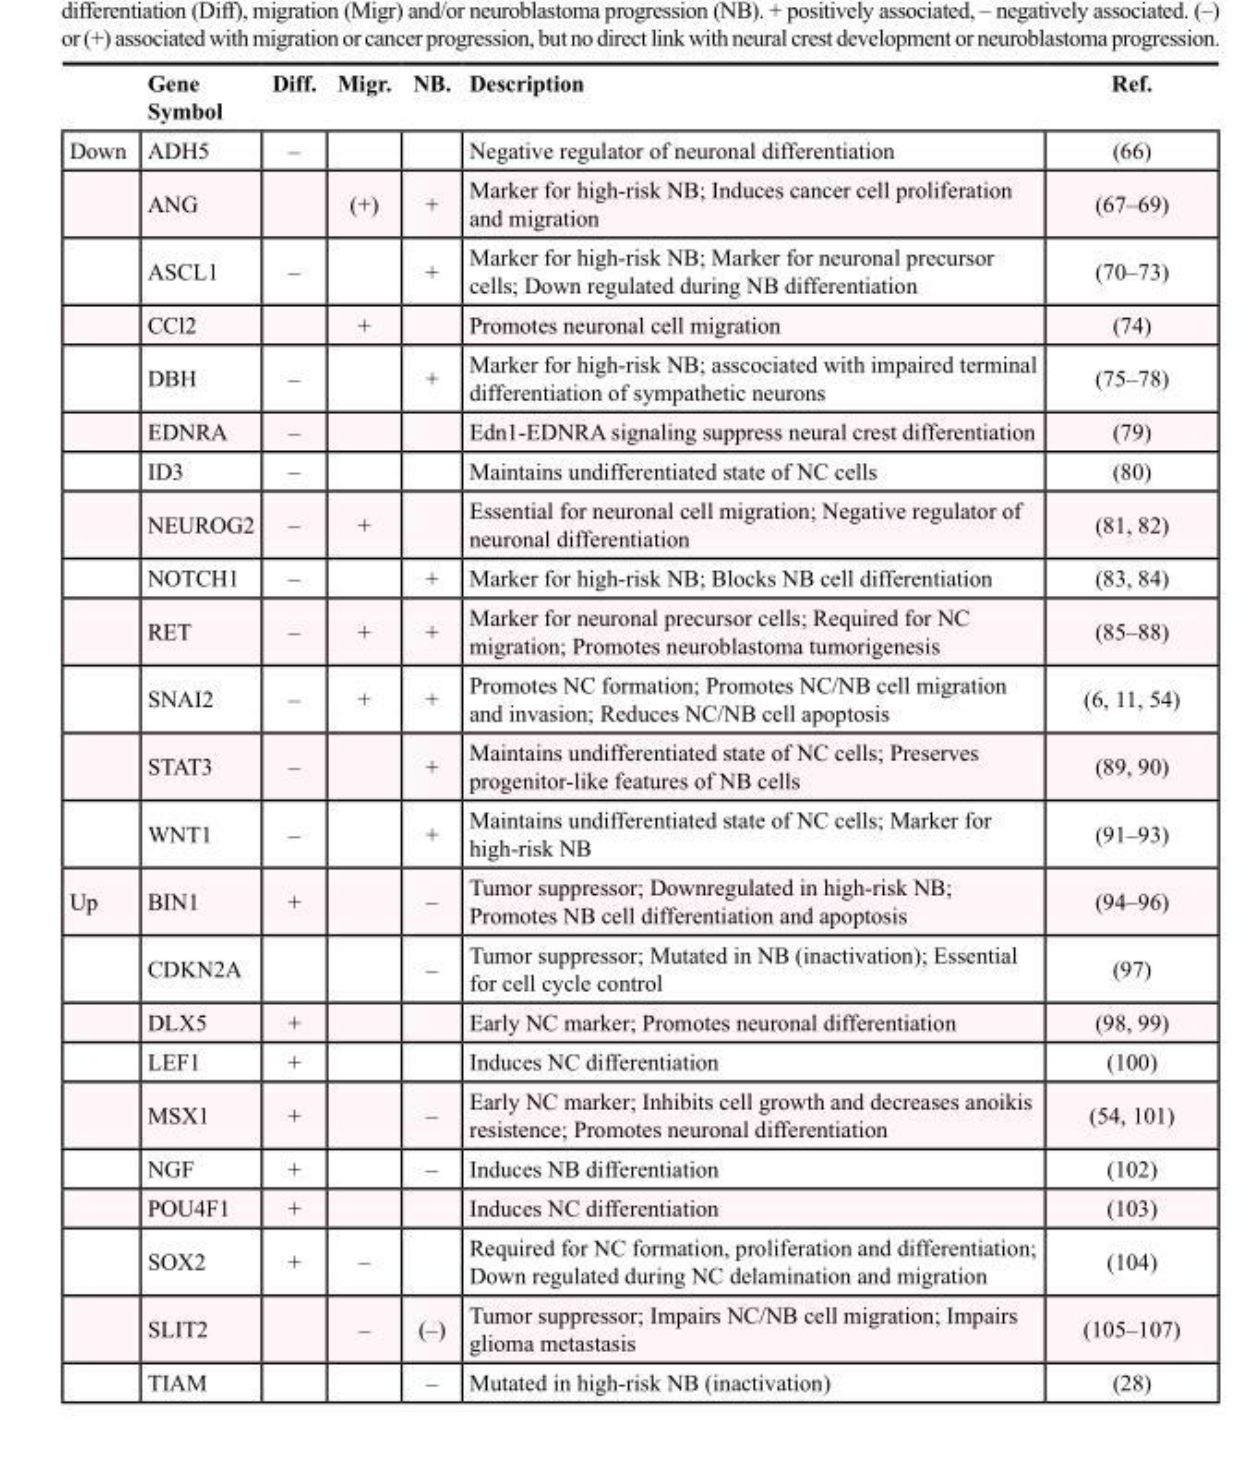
<table><thead><tr><td></td><td>Gene Symbol</td><td>Diff.</td><td>Migr.</td><td>NB.</td><td>Description</td><td>Ref.</td></tr></thead><tbody><tr><td rowspan="13">Down</td><td>ADH5</td><td>–</td><td></td><td></td><td>Negative regulator of neuronal differentiation</td><td>(66)</td></tr><tr><td>ANG</td><td></td><td>(+)</td><td>+</td><td>Marker for high-risk NB; Induces cancer cell proliferation and migration</td><td>(67–69)</td></tr><tr><td>ASCL1</td><td>–</td><td></td><td>+</td><td>Marker for high-risk NB; Marker for neuronal precursor cells; Down regulated during NB differentiation</td><td>(70–73)</td></tr><tr><td>CCl2</td><td></td><td>+</td><td></td><td>Promotes neuronal cell migration</td><td>(74)</td></tr><tr><td>DBH</td><td>–</td><td></td><td>+</td><td>Marker for high-risk NB; asscociated with impaired terminal differentiation of sympathetic neurons</td><td>(75–78)</td></tr><tr><td>EDNRA</td><td>–</td><td></td><td></td><td>Edn1-EDNRA signaling suppress neural crest differentiation</td><td>(79)</td></tr><tr><td>ID3</td><td>–</td><td></td><td></td><td>Maintains undifferentiated state of NC cells</td><td>(80)</td></tr><tr><td>NEUROG2</td><td>–</td><td>+</td><td></td><td>Essential for neuronal cell migration; Negative regulator of neuronal differentiation</td><td>(81, 82)</td></tr><tr><td>NOTCH1</td><td>–</td><td></td><td>+</td><td>Marker for high-risk NB; Blocks NB cell differentiation</td><td>(83, 84)</td></tr><tr><td>RET</td><td>–</td><td>+</td><td>+</td><td>Marker for neuronal precursor cells; Required for NC migration; Promotes neuroblastoma tumorigenesis</td><td>(85–88)</td></tr><tr><td>SNAI2</td><td>–</td><td>+</td><td>+</td><td>Promotes NC formation; Promotes NC/NB cell migration and invasion; Reduces NC/NB cell apoptosis</td><td>(6, 11, 54)</td></tr><tr><td>STAT3</td><td>–</td><td></td><td>+</td><td>Maintains undifferentiated state of NC cells; Preserves progenitor-like features of NB cells</td><td>(89, 90)</td></tr><tr><td>WNT1</td><td>–</td><td></td><td>+</td><td>Maintains undifferentiated state of NC cells; Marker for high-risk NB</td><td>(91–93)</td></tr><tr><td rowspan="10">Up</td><td>BIN1</td><td>+</td><td></td><td>–</td><td>Tumor suppressor; Downregulated in high-risk NB; Promotes NB cell differentiation and apoptosis</td><td>(94–96)</td></tr><tr><td>CDKN2A</td><td></td><td></td><td>–</td><td>Tumor suppressor; Mutated in NB (inactivation); Essential for cell cycle control</td><td>(97)</td></tr><tr><td>DLX5</td><td>+</td><td></td><td></td><td>Early NC marker; Promotes neuronal differentiation</td><td>(98, 99)</td></tr><tr><td>LEF1</td><td>+</td><td></td><td></td><td>Induces NC differentiation</td><td>(100)</td></tr><tr><td>MSX1</td><td>+</td><td></td><td>–</td><td>Early NC marker; Inhibits cell growth and decreases anoikis resistence; Promotes neuronal differentiation</td><td>(54, 101)</td></tr><tr><td>NGF</td><td>+</td><td></td><td>–</td><td>Induces NB differentiation</td><td>(102)</td></tr><tr><td>POU4F1</td><td>+</td><td></td><td></td><td>Induces NC differentiation</td><td>(103)</td></tr><tr><td>SOX2</td><td>+</td><td>–</td><td></td><td>Required for NC formation, proliferation and differentiation; Down regulated during NC delamination and migration</td><td>(104)</td></tr><tr><td>SLIT2</td><td></td><td>–</td><td>(–)</td><td>Tumor suppressor; Impairs NC/NB cell migration; Impairs glioma metastasis</td><td>(105–107)</td></tr><tr><td>TIAM</td><td></td><td></td><td>–</td><td>Mutated in high-risk NB (inactivation)</td><td>(28)</td></tr></tbody></table>